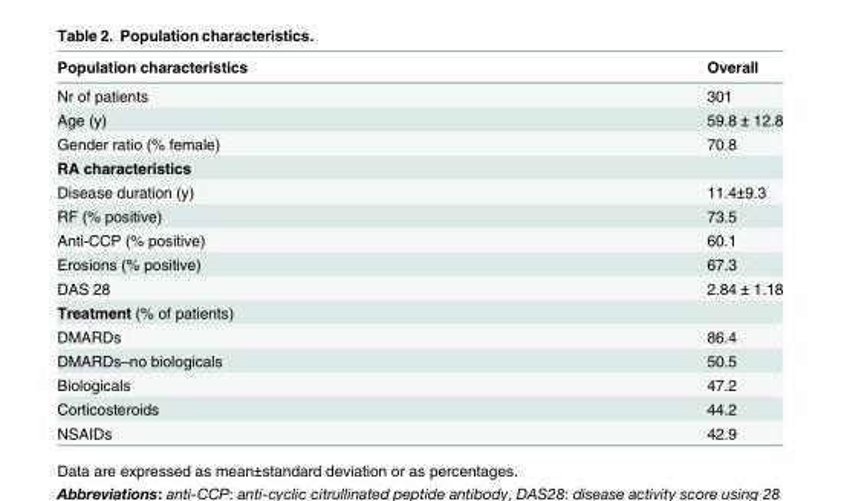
<table><thead><tr><td>Population characteristics</td><td>Overall</td></tr></thead><tbody><tr><td>Nr of patients</td><td>301</td></tr><tr><td>Age (y)</td><td>59.8 ± 12.8</td></tr><tr><td>Gender ratio (% female)</td><td>70.8</td></tr><tr><td colspan="2">RA characteristics</td></tr><tr><td>Disease duration (y)</td><td>11.4±9.3</td></tr><tr><td>RF (% positive)</td><td>73.5</td></tr><tr><td>Anti-CCP (% positive)</td><td>60.1</td></tr><tr><td>Erosions (% positive)</td><td>67.3</td></tr><tr><td>DAS 28</td><td>2.84 ± 1.18</td></tr><tr><td colspan="2">Treatment (% of patients)</td></tr><tr><td>DMARDs</td><td>86.4</td></tr><tr><td>DMARDs–no biologicals</td><td>50.5</td></tr><tr><td>Biologicals</td><td>47.2</td></tr><tr><td>Corticosteroids</td><td>44.2</td></tr><tr><td>NSAIDs</td><td>42.9</td></tr></tbody></table>